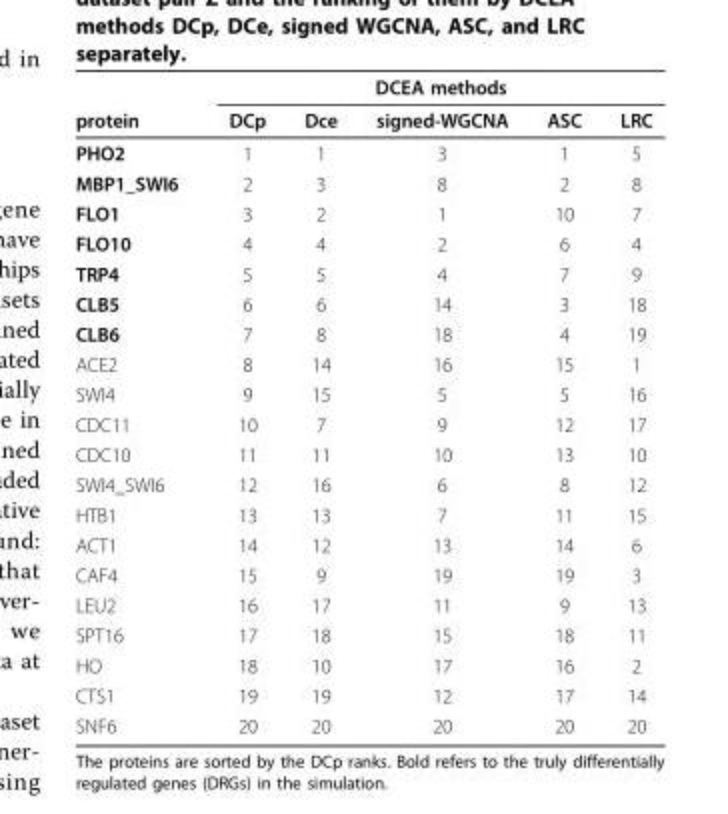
<table><thead><tr><td rowspan="2">protein</td><td colspan="5">DCEA methods</td></tr><tr><td>DCp</td><td>Dce</td><td>signed-WGCNA</td><td>ASC</td><td>LRC</td></tr></thead><tbody><tr><td>PHO2</td><td>1</td><td>1</td><td>3</td><td>1</td><td>5</td></tr><tr><td>MBP1_SWI6</td><td>2</td><td>3</td><td>8</td><td>2</td><td>8</td></tr><tr><td>FLO1</td><td>3</td><td>2</td><td>1</td><td>10</td><td>7</td></tr><tr><td>FLO10</td><td>4</td><td>4</td><td>2</td><td>6</td><td>4</td></tr><tr><td>TRP4</td><td>5</td><td>5</td><td>4</td><td>7</td><td>9</td></tr><tr><td>CLB5</td><td>6</td><td>6</td><td>14</td><td>3</td><td>18</td></tr><tr><td>CLB6</td><td>7</td><td>8</td><td>18</td><td>4</td><td>19</td></tr><tr><td>ACE2</td><td>8</td><td>14</td><td>16</td><td>15</td><td>1</td></tr><tr><td>SWI4</td><td>9</td><td>15</td><td>5</td><td>5</td><td>16</td></tr><tr><td>CDC11</td><td>10</td><td>7</td><td>9</td><td>12</td><td>17</td></tr><tr><td>CDC10</td><td>11</td><td>11</td><td>10</td><td>13</td><td>10</td></tr><tr><td>SWI4_SWI6</td><td>12</td><td>16</td><td>6</td><td>8</td><td>12</td></tr><tr><td>HTB1</td><td>13</td><td>13</td><td>7</td><td>11</td><td>15</td></tr><tr><td>ACT1</td><td>14</td><td>12</td><td>13</td><td>14</td><td>6</td></tr><tr><td>CAF4</td><td>15</td><td>9</td><td>19</td><td>19</td><td>3</td></tr><tr><td>LEU2</td><td>16</td><td>17</td><td>11</td><td>9</td><td>13</td></tr><tr><td>SPT16</td><td>17</td><td>18</td><td>15</td><td>18</td><td>11</td></tr><tr><td>HO</td><td>18</td><td>10</td><td>17</td><td>16</td><td>2</td></tr><tr><td>CTS1</td><td>19</td><td>19</td><td>12</td><td>17</td><td>14</td></tr><tr><td>SNF6</td><td>20</td><td>20</td><td>20</td><td>20</td><td>20</td></tr></tbody></table>